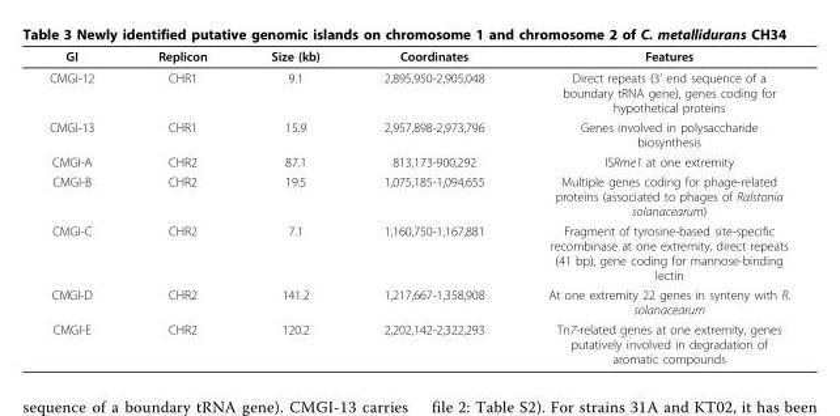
<table><thead><tr><td>GI</td><td>Replicon</td><td>Size (kb)</td><td>Coordinates</td><td>Features</td></tr></thead><tbody><tr><td>CMGI-12</td><td>CHR1</td><td>9.1</td><td>2,895,950-2,905,048</td><td>Direct repeats (3’ end sequence of a boundary tRNA gene), genes coding for hypothetical proteins</td></tr><tr><td>CMGI-13</td><td>CHR1</td><td>15.9</td><td>2,957,898-2,973,796</td><td>Genes involved in polysaccharide biosynthesis</td></tr><tr><td>CMGI-A</td><td>CHR2</td><td>87.1</td><td>813,173-900,292</td><td>ISRme1 at one extremity</td></tr><tr><td>CMGI-B</td><td>CHR2</td><td>19.5</td><td>1,075,185-1,094,655</td><td>Multiple genes coding for phage-related proteins (associated to phages of Ralstonia solanacearum)</td></tr><tr><td>CMGI-C</td><td>CHR2</td><td>7.1</td><td>1,160,750-1,167,881</td><td>Fragment of tyrosine-based site-specific recombinase at one extremity, direct repeats (41 bp), gene coding for mannose-binding lectin</td></tr><tr><td>CMGI-D</td><td>CHR2</td><td>141.2</td><td>1,217,667-1,358,908</td><td>At one extremity 22 genes in synteny with R. solanacearum</td></tr><tr><td>CMGI-E</td><td>CHR2</td><td>120.2</td><td>2,202,142-2,322,293</td><td>Tn7-related genes at one extremity, genes putatively involved in degradation of aromatic compounds</td></tr></tbody></table>